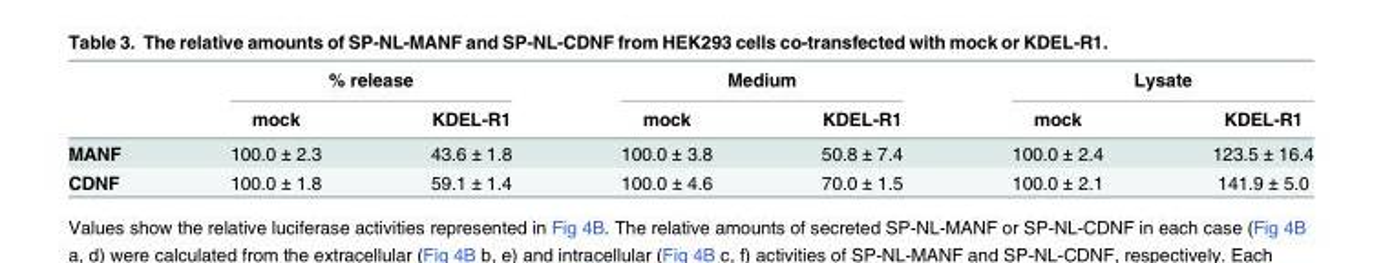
<table><thead><tr><td rowspan="2"></td><td colspan="2">% release</td><td colspan="2">Medium</td><td colspan="2">Lysate</td></tr><tr><td>mock</td><td>KDEL-R1</td><td>mock</td><td>KDEL-R1</td><td>mock</td><td>KDEL-R1</td></tr></thead><tbody><tr><td>MANF</td><td>100.0 ± 2.3</td><td>43.6 ± 1.8</td><td>100.0 ± 3.8</td><td>50.8 ± 7.4</td><td>100.0 ± 2.4</td><td>123.5 ± 16.4</td></tr><tr><td>CDNF</td><td>100.0 ± 1.8</td><td>59.1 ± 1.4</td><td>100.0 ± 4.6</td><td>70.0 ± 1.5</td><td>100.0 ± 2.1</td><td>141.9 ± 5.0</td></tr></tbody></table>